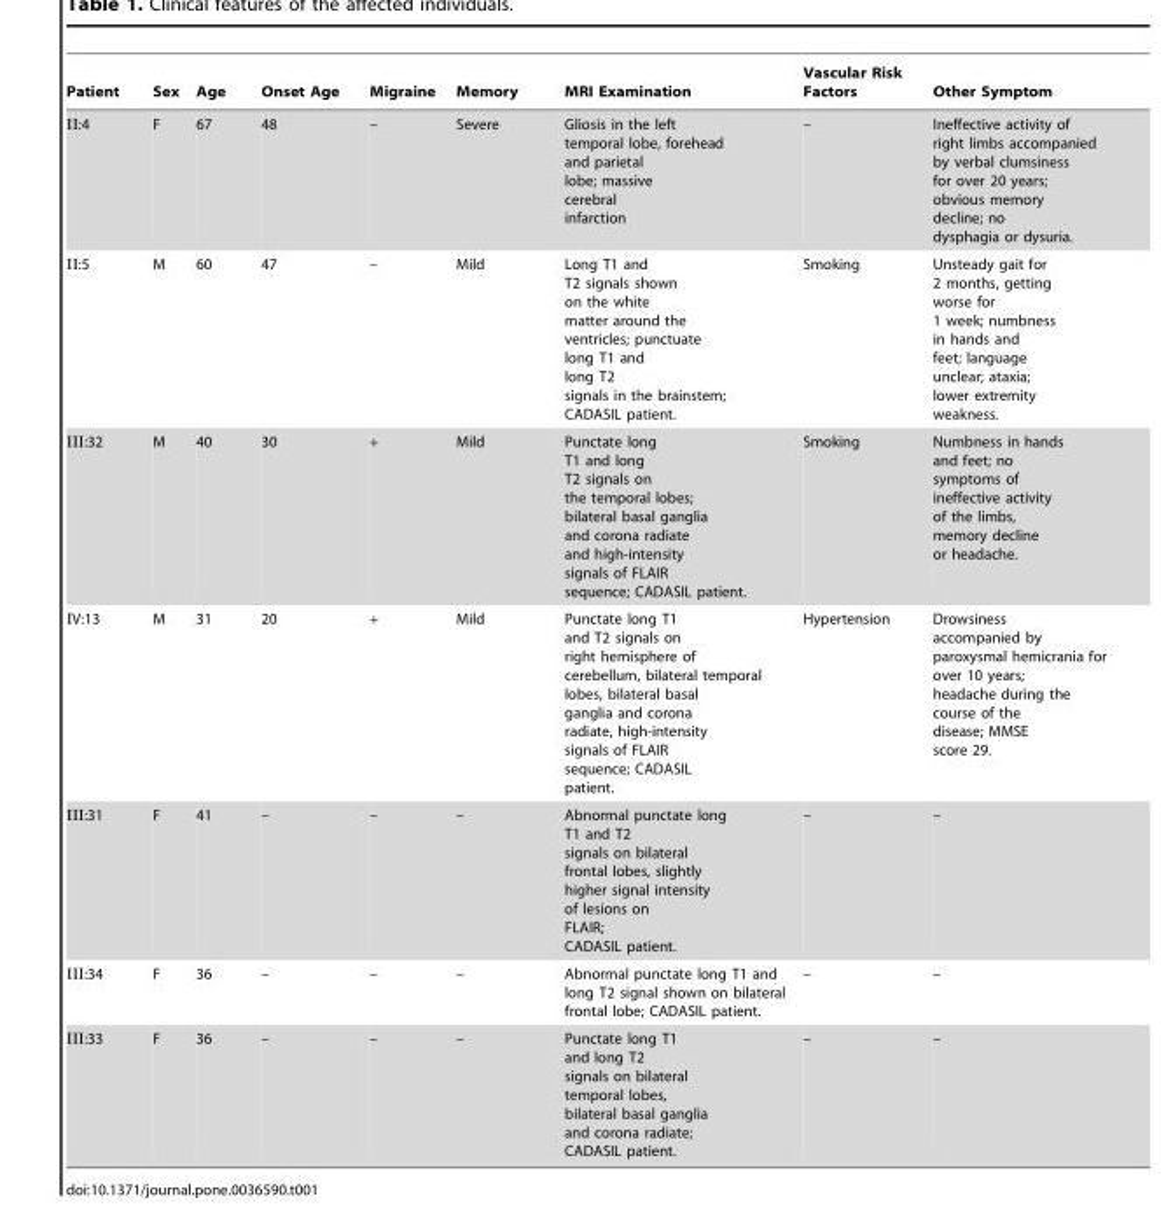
<table><thead><tr><td>Patient</td><td>Sex</td><td>Age</td><td>Onset Age</td><td>Migraine</td><td>Memory</td><td>MRI Examination</td><td>Vascular Risk Factors</td><td>Other Symptom</td></tr></thead><tbody><tr><td>II:4</td><td>F</td><td>67</td><td>48</td><td>–</td><td>Severe</td><td>Gliosis in the left temporal lobe, forehead and parietal lobe; massive cerebral infarction</td><td>–</td><td>Ineffective activity of right limbs accompanied by verbal clumsiness for over 20 years; obvious memory decline; no dysphagia or dysuria.</td></tr><tr><td>II:5</td><td>M</td><td>60</td><td>47</td><td>–</td><td>Mild</td><td>Long T1 and T2 signals shown on the white matter around the ventricles; punctuate long T1 and long T2 signals in the brainstem; CADASIL patient.</td><td>Smoking</td><td>Unsteady gait for 2 months, getting worse for 1 week; numbness in hands and feet; language unclear; ataxia; lower extremity weakness.</td></tr><tr><td>III:32</td><td>M</td><td>40</td><td>30</td><td>+</td><td>Mild</td><td>Punctate long T1 and long T2 signals on the temporal lobes; bilateral basal ganglia and corona radiate and high-intensity signals of FLAIR sequence; CADASIL patient.</td><td>Smoking</td><td>Numbness in hands and feet; no symptoms of ineffective activity of the limbs, memory decline or headache.</td></tr><tr><td>IV:13</td><td>M</td><td>31</td><td>20</td><td>+</td><td>Mild</td><td>Punctate long T1 and T2 signals on right hemisphere of cerebellum, bilateral temporal lobes, bilateral basal ganglia and corona radiate, high-intensity signals of FLAIR sequence; CADASIL patient.</td><td>Hypertension</td><td>Drowsiness accompanied by paroxysmal hemicrania for over 10 years; headache during the course of the disease; MMSE score 29.</td></tr><tr><td>III:31</td><td>F</td><td>41</td><td>–</td><td>–</td><td>–</td><td>Abnormal punctate long T1 and T2 signals on bilateral frontal lobes, slightly higher signal intensity of lesions on FLAIR; CADASIL patient.</td><td>–</td><td>–</td></tr><tr><td>III:34</td><td>F</td><td>36</td><td>–</td><td>–</td><td>–</td><td>Abnormal punctate long T1 and long T2 signal shown on bilateral frontal lobe; CADASIL patient.</td><td>–</td><td>–</td></tr><tr><td>III:33</td><td>F</td><td>36</td><td>–</td><td>–</td><td>–</td><td>Punctate long T1 and long T2 signals on bilateral temporal lobes, bilateral basal ganglia and corona radiate; CADASIL patient.</td><td>–</td><td>–</td></tr></tbody></table>